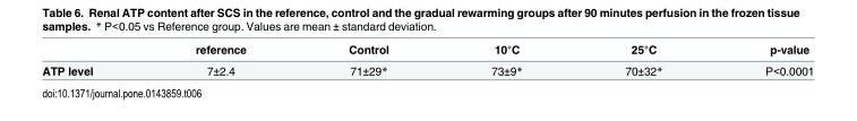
<table><thead><tr><td></td><td>reference</td><td>Control</td><td>10°C</td><td>25°C</td><td>p-value</td></tr></thead><tbody><tr><td>ATP level</td><td>7±2.4</td><td>71±29*</td><td>73±9*</td><td>70±32*</td><td>P&lt;0.0001</td></tr></tbody></table>